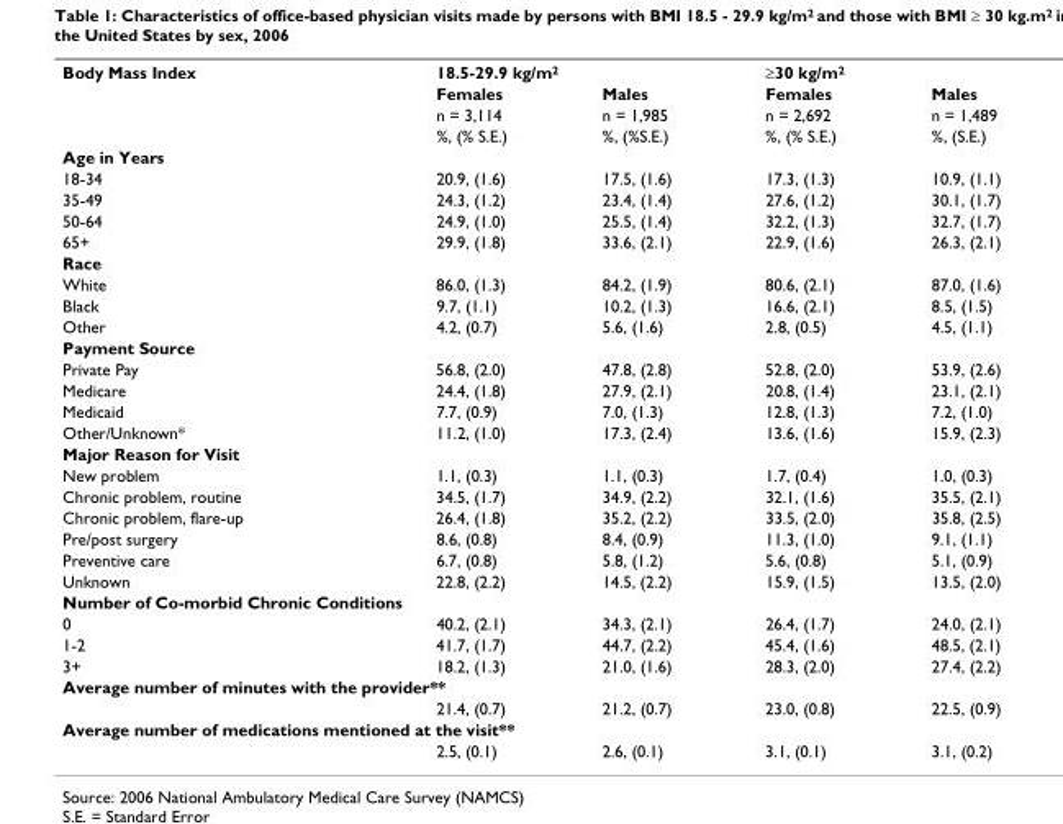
<table><tbody><tr><td rowspan="4">Body Mass Index</td><td colspan="2">18.5-29.9 kg/m<sup>2</sup></td><td colspan="2">≥30 kg/m<sup>2</sup></td></tr><tr><td>Females</td><td>Males</td><td>Females</td><td>Males</td></tr><tr><td>n = 3,114</td><td>n = 1,985</td><td>n = 2,692</td><td>n = 1,489</td></tr><tr><td>%, (% S.E.)</td><td>%, (%S.E.)</td><td>%, (% S.E.)</td><td>%, (S.E.)</td></tr><tr><td colspan="5">Age in Years</td></tr><tr><td>18-34</td><td>20.9, (1.6)</td><td>17.5, (1.6)</td><td>17.3, (1.3)</td><td>10.9, (1.1)</td></tr><tr><td>35-49</td><td>24.3, (1.2)</td><td>23.4, (1.4)</td><td>27.6, (1.2)</td><td>30.1, (1.7)</td></tr><tr><td>50-64</td><td>24.9, (1.0)</td><td>25.5, (1.4)</td><td>32.2, (1.3)</td><td>32.7, (1.7)</td></tr><tr><td>65+</td><td>29.9, (1.8)</td><td>33.6, (2.1)</td><td>22.9, (1.6)</td><td>26.3, (2.1)</td></tr><tr><td colspan="5">Race</td></tr><tr><td>White</td><td>86.0, (1.3)</td><td>84.2, (1.9)</td><td>80.6, (2.1)</td><td>87.0, (1.6)</td></tr><tr><td>Black</td><td>9.7, (1.1)</td><td>10.2, (1.3)</td><td>16.6, (2.1)</td><td>8.5, (1.5)</td></tr><tr><td>Other</td><td>4.2, (0.7)</td><td>5.6, (1.6)</td><td>2.8, (0.5)</td><td>4.5, (1.1)</td></tr><tr><td colspan="5">Payment Source</td></tr><tr><td>Private Pay</td><td>56.8, (2.0)</td><td>47.8, (2.8)</td><td>52.8, (2.0)</td><td>53.9, (2.6)</td></tr><tr><td>Medicare</td><td>24.4, (1.8)</td><td>27.9, (2.1)</td><td>20.8, (1.4)</td><td>23.1, (2.1)</td></tr><tr><td>Medicaid</td><td>7.7, (0.9)</td><td>7.0, (1.3)</td><td>12.8, (1.3)</td><td>7.2, (1.0)</td></tr><tr><td>Other/Unknown*</td><td>11.2, (1.0)</td><td>17.3, (2.4)</td><td>13.6, (1.6)</td><td>15.9, (2.3)</td></tr><tr><td colspan="5">Major Reason for Visit</td></tr><tr><td>New problem</td><td>1.1, (0.3)</td><td>1.1, (0.3)</td><td>1.7, (0.4)</td><td>1.0, (0.3)</td></tr><tr><td>Chronic problem, routine</td><td>34.5, (1.7)</td><td>34.9, (2.2)</td><td>32.1, (1.6)</td><td>35.5, (2.1)</td></tr><tr><td>Chronic problem, flare-up</td><td>26.4, (1.8)</td><td>35.2, (2.2)</td><td>33.5, (2.0)</td><td>35.8, (2.5)</td></tr><tr><td>Pre/post surgery</td><td>8.6, (0.8)</td><td>8.4, (0.9)</td><td>11.3, (1.0)</td><td>9.1, (1.1)</td></tr><tr><td>Preventive care</td><td>6.7, (0.8)</td><td>5.8, (1.2)</td><td>5.6, (0.8)</td><td>5.1, (0.9)</td></tr><tr><td>Unknown</td><td>22.8, (2.2)</td><td>14.5, (2.2)</td><td>15.9, (1.5)</td><td>13.5, (2.0)</td></tr><tr><td colspan="5">Number of Co-morbid Chronic Conditions</td></tr><tr><td>0</td><td>40.2, (2.1)</td><td>34.3, (2.1)</td><td>26.4, (1.7)</td><td>24.0, (2.1)</td></tr><tr><td>1-2</td><td>41.7, (1.7)</td><td>44.7, (2.2)</td><td>45.4, (1.6)</td><td>48.5, (2.1)</td></tr><tr><td>3+</td><td>18.2, (1.3)</td><td>21.0, (1.6)</td><td>28.3, (2.0)</td><td>27.4, (2.2)</td></tr><tr><td colspan="5">Average number of minutes with the provider**</td></tr><tr><td></td><td>21.4, (0.7)</td><td>21.2, (0.7)</td><td>23.0, (0.8)</td><td>22.5, (0.9)</td></tr><tr><td colspan="5">Average number of medications mentioned at the visit**</td></tr><tr><td></td><td>2.5, (0.1)</td><td>2.6, (0.1)</td><td>3.1, (0.1)</td><td>3.1, (0.2)</td></tr></tbody></table>